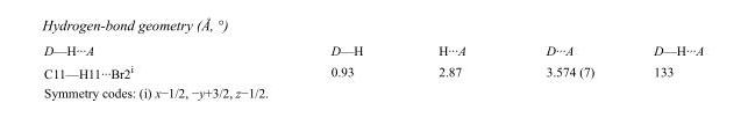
<table><tbody><tr><td>D—H···A</td><td>D—H</td><td>H···A</td><td>D···A</td><td>D—H···A</td></tr><tr><td>C11—H11···Br2<sup>i</sup></td><td>0.93</td><td>2.87</td><td>3.574 (7)</td><td>133</td></tr></tbody></table>